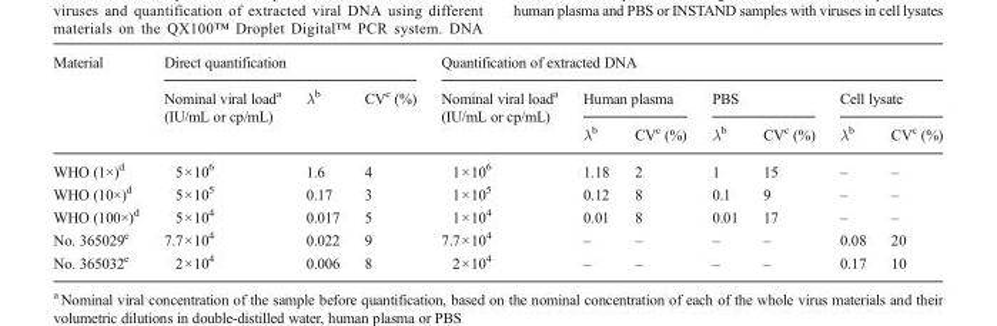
<table><thead><tr><td rowspan="3">Material</td><td colspan="3">Direct quantification</td><td colspan="7">Quantification of extracted DNA</td></tr><tr><td rowspan="2">Nominal viral load<sup>a</sup> (IU/mL or cp/mL)</td><td rowspan="2">λ<sup>b</sup></td><td rowspan="2">CV<sup>c</sup> (%)</td><td rowspan="2">Nominal viral load<sup>a</sup> (IU/mL or cp/mL)</td><td colspan="2">Human plasma</td><td colspan="2">PBS</td><td colspan="2">Cell lysate</td></tr><tr><td>λ<sup>b</sup></td><td>CV<sup>c</sup> (%)</td><td>λ<sup>b</sup></td><td>CV<sup>c</sup> (%)</td><td>λ<sup>b</sup></td><td>CV<sup>c</sup> (%)</td></tr></thead><tbody><tr><td>WHO (1×)<sup>d</sup></td><td>5×10<sup>6</sup></td><td>1.6</td><td>4</td><td>1×10<sup>6</sup></td><td>1.18</td><td>2</td><td>1</td><td>15</td><td>–</td><td>–</td></tr><tr><td>WHO (10×)<sup>d</sup></td><td>5×10<sup>5</sup></td><td>0.17</td><td>3</td><td>1×10<sup>5</sup></td><td>0.12</td><td>8</td><td>0.1</td><td>9</td><td>–</td><td>–</td></tr><tr><td>WHO (100×)<sup>d</sup></td><td>5×10<sup>4</sup></td><td>0.017</td><td>5</td><td>1×10<sup>4</sup></td><td>0.01</td><td>8</td><td>0.01</td><td>17</td><td>–</td><td>–</td></tr><tr><td>No. 365029<sup>e</sup></td><td>7.7×10<sup>4</sup></td><td>0.022</td><td>9</td><td>7.7×10<sup>4</sup></td><td>–</td><td>–</td><td>–</td><td>–</td><td>0.08</td><td>20</td></tr><tr><td>No. 365032<sup>e</sup></td><td>2×10<sup>4</sup></td><td>0.006</td><td>8</td><td>2×10<sup>4</sup></td><td>–</td><td>–</td><td>–</td><td>–</td><td>0.17</td><td>10</td></tr></tbody></table>